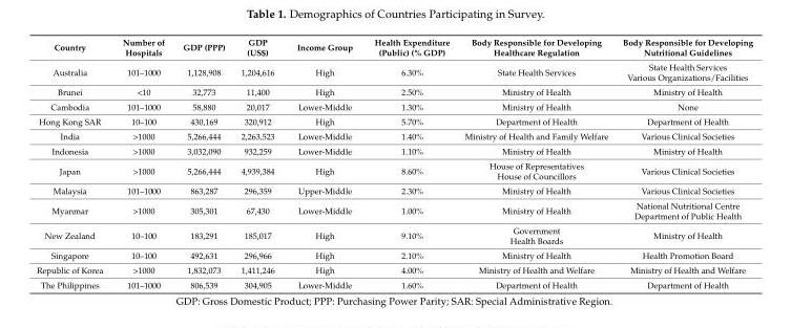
<table><thead><tr><td>Country</td><td>Number of Hospitals</td><td>GDP (PPP)</td><td>GDP (US$)</td><td>Income Group</td><td>Health Expenditure (Public) (% GDP)</td><td>Body Responsible for Developing Healthcare Regulation</td><td>Body Responsible for Developing Nutritional Guidelines</td></tr></thead><tbody><tr><td>Australia</td><td>101–1000</td><td>1,128,908</td><td>1,204,616</td><td>High</td><td>6.30%</td><td>State Health Services</td><td>State Health Services Various Organizations/Facilities</td></tr><tr><td>Brunei</td><td>&lt;10</td><td>32,773</td><td>11,400</td><td>High</td><td>2.50%</td><td>Ministry of Health</td><td>Ministry of Health</td></tr><tr><td>Cambodia</td><td>101–1000</td><td>58,880</td><td>20,017</td><td>Lower-Middle</td><td>1.30%</td><td>Ministry of Health</td><td>None</td></tr><tr><td>Hong Kong SAR</td><td>10–100</td><td>430,169</td><td>320,912</td><td>High</td><td>5.70%</td><td>Department of Health</td><td>Department of Health</td></tr><tr><td>India</td><td>&gt;1000</td><td>5,266,444</td><td>2,263,523</td><td>Lower-Middle</td><td>1.40%</td><td>Ministry of Health and Family Welfare</td><td>Various Clinical Societies</td></tr><tr><td>Indonesia</td><td>&gt;1000</td><td>3,032,090</td><td>932,259</td><td>Lower-Middle</td><td>1.10%</td><td>Ministry of Health</td><td>Ministry of Health</td></tr><tr><td>Japan</td><td>&gt;1000</td><td>5,266,444</td><td>4,939,384</td><td>High</td><td>8.60%</td><td>House of Representatives House of Councillors</td><td>Various Clinical Societies</td></tr><tr><td>Malaysia</td><td>101–1000</td><td>863,287</td><td>296,359</td><td>Upper-Middle</td><td>2.30%</td><td>Ministry of Health</td><td>Various Clinical Societies</td></tr><tr><td>Myanmar</td><td>&gt;1000</td><td>305,301</td><td>67,430</td><td>Lower-Middle</td><td>1.00%</td><td>Ministry of Health</td><td>National Nutritional Centre Department of Public Health</td></tr><tr><td>New Zealand</td><td>10–100</td><td>183,291</td><td>185,017</td><td>High</td><td>9.10%</td><td>Government Health Boards</td><td>Ministry of Health</td></tr><tr><td>Singapore</td><td>10–100</td><td>492,631</td><td>296,966</td><td>High</td><td>2.10%</td><td>Ministry of Health</td><td>Health Promotion Board</td></tr><tr><td>Republic of Korea</td><td>&gt;1000</td><td>1,832,073</td><td>1,411,246</td><td>High</td><td>4.00%</td><td>Ministry of Health and Welfare</td><td>Ministry of Health and Welfare</td></tr><tr><td>The Philippines</td><td>101–1000</td><td>806,539</td><td>304,905</td><td>Lower-Middle</td><td>1.60%</td><td>Department of Health</td><td>Department of Health</td></tr></tbody></table>